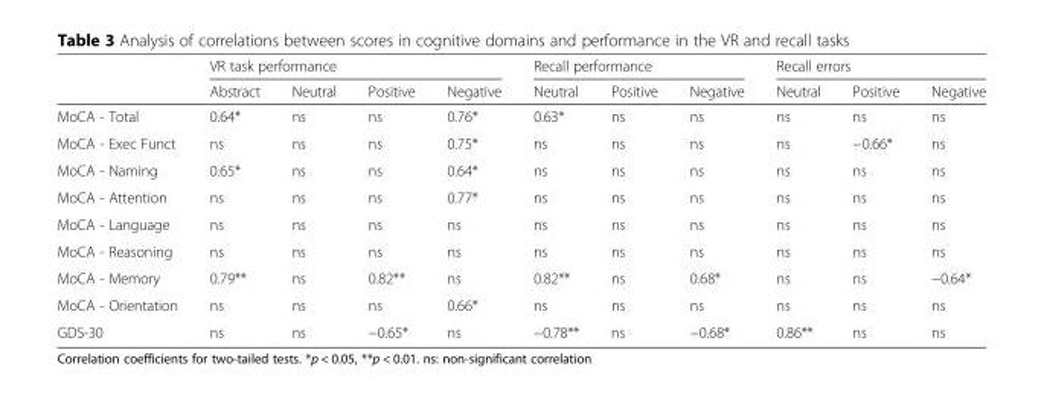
<table><thead><tr><td rowspan="2"></td><td colspan="4">VR task performance</td><td colspan="3">Recall performance</td><td colspan="3">Recall errors</td></tr><tr><td>Abstract</td><td>Neutral</td><td>Positive</td><td>Negative</td><td>Neutral</td><td>Positive</td><td>Negative</td><td>Neutral</td><td>Positive</td><td>Negative</td></tr></thead><tbody><tr><td>MoCA - Total</td><td>0.64*</td><td>ns</td><td>ns</td><td>0.76*</td><td>0.63*</td><td>ns</td><td>ns</td><td>ns</td><td>ns</td><td>ns</td></tr><tr><td>MoCA - Exec Funct</td><td>ns</td><td>ns</td><td>ns</td><td>0.75*</td><td>ns</td><td>ns</td><td>ns</td><td>ns</td><td>−0.66*</td><td>ns</td></tr><tr><td>MoCA - Naming</td><td>0.65*</td><td>ns</td><td>ns</td><td>0.64*</td><td>ns</td><td>ns</td><td>ns</td><td>ns</td><td>ns</td><td>ns</td></tr><tr><td>MoCA - Attention</td><td>ns</td><td>ns</td><td>ns</td><td>0.77*</td><td>ns</td><td>ns</td><td>ns</td><td>ns</td><td>ns</td><td>ns</td></tr><tr><td>MoCA - Language</td><td>ns</td><td>ns</td><td>ns</td><td>ns</td><td>ns</td><td>ns</td><td>ns</td><td>ns</td><td>ns</td><td>ns</td></tr><tr><td>MoCA - Reasoning</td><td>ns</td><td>ns</td><td>ns</td><td>ns</td><td>ns</td><td>ns</td><td>ns</td><td>ns</td><td>ns</td><td>ns</td></tr><tr><td>MoCA - Memory</td><td>0.79**</td><td>ns</td><td>0.82**</td><td>ns</td><td>0.82**</td><td>ns</td><td>0.68*</td><td>ns</td><td>ns</td><td>−0.64*</td></tr><tr><td>MoCA - Orientation</td><td>ns</td><td>ns</td><td>ns</td><td>0.66*</td><td>ns</td><td>ns</td><td>ns</td><td>ns</td><td>ns</td><td>ns</td></tr><tr><td>GDS-30</td><td>ns</td><td>ns</td><td>−0.65*</td><td>ns</td><td>−0.78**</td><td>ns</td><td>−0.68*</td><td>0.86**</td><td>ns</td><td>ns</td></tr></tbody></table>